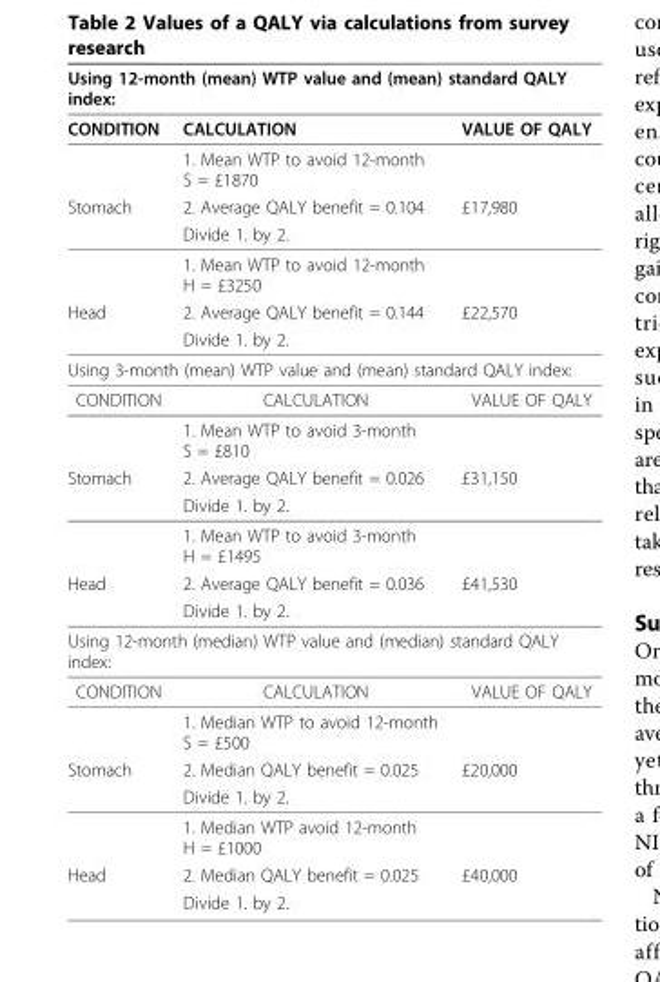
<table><thead><tr><td colspan="3">Using 12-month (mean) WTP value and (mean) standard QALY index:</td></tr><tr><td>CONDITION</td><td>CALCULATION</td><td>VALUE OF QALY</td></tr></thead><tbody><tr><td></td><td>1. Mean WTP to avoid 12-month S = £1870</td><td></td></tr><tr><td rowspan="3">Stomach</td><td>2. Average QALY benefit = 0.104</td><td>£17,980</td></tr><tr><td>Divide 1. by 2.</td><td></td></tr><tr><td>1. Mean WTP to avoid 12-month H = £3250</td><td></td></tr><tr><td rowspan="2">Head</td><td>2. Average QALY benefit = 0.144</td><td>£22,570</td></tr><tr><td>Divide 1. by 2.</td><td></td></tr><tr><td colspan="3">Using 3-month (mean) WTP value and (mean) standard QALY index:</td></tr><tr><td rowspan="2">CONDITION</td><td>CALCULATION</td><td>VALUE OF QALY</td></tr><tr><td>1. Mean WTP to avoid 3-month S = £810</td><td></td></tr><tr><td rowspan="3">Stomach</td><td>2. Average QALY benefit = 0.026</td><td>£31,150</td></tr><tr><td>Divide 1. by 2.</td><td></td></tr><tr><td>1. Mean WTP to avoid 3-month H = £1495</td><td></td></tr><tr><td rowspan="2">Head</td><td>2. Average QALY benefit = 0.036</td><td>£41,530</td></tr><tr><td>Divide 1. by 2.</td><td></td></tr><tr><td colspan="3">Using 12-month (median) WTP value and (median) standard QALY index:</td></tr><tr><td rowspan="2">CONDITION</td><td>CALCULATION</td><td>VALUE OF QALY</td></tr><tr><td>1. Median WTP to avoid 12-month S = £500</td><td></td></tr><tr><td rowspan="3">Stomach</td><td>2. Median QALY benefit = 0.025</td><td>£20,000</td></tr><tr><td>Divide 1. by 2.</td><td></td></tr><tr><td>1. Median WTP avoid 12-month H = £1000</td><td></td></tr><tr><td rowspan="2">Head</td><td>2. Median QALY benefit = 0.025</td><td>£40,000</td></tr><tr><td>Divide 1. by 2.</td><td></td></tr></tbody></table>